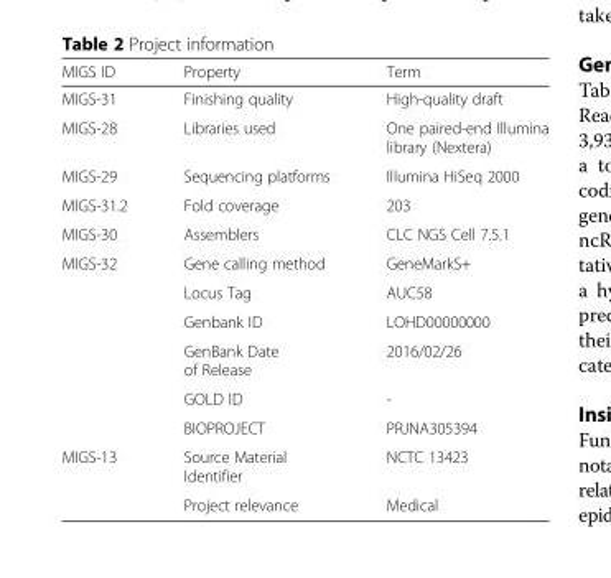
<table><thead><tr><td>MIGS ID</td><td>Property</td><td>Term</td></tr></thead><tbody><tr><td>MIGS-31</td><td>Finishing quality</td><td>High-quality draft</td></tr><tr><td>MIGS-28</td><td>Libraries used</td><td>One paired-end Illumina library (Nextera)</td></tr><tr><td>MIGS-29</td><td>Sequencing platforms</td><td>Illumina HiSeq 2000</td></tr><tr><td>MIGS-31.2</td><td>Fold coverage</td><td>203</td></tr><tr><td>MIGS-30</td><td>Assemblers</td><td>CLC NGS Cell 7.5.1</td></tr><tr><td rowspan="6">MIGS-32</td><td>Gene calling method</td><td>GeneMarkS+</td></tr><tr><td>Locus Tag</td><td>AUC58</td></tr><tr><td>Genbank ID</td><td>LOHD00000000</td></tr><tr><td>GenBank Date of Release</td><td>2016/02/26</td></tr><tr><td>GOLD ID</td><td>-</td></tr><tr><td>BIOPROJECT</td><td>PRJNA305394</td></tr><tr><td rowspan="2">MIGS-13</td><td>Source Material Identifier</td><td>NCTC 13423</td></tr><tr><td>Project relevance</td><td>Medical</td></tr></tbody></table>